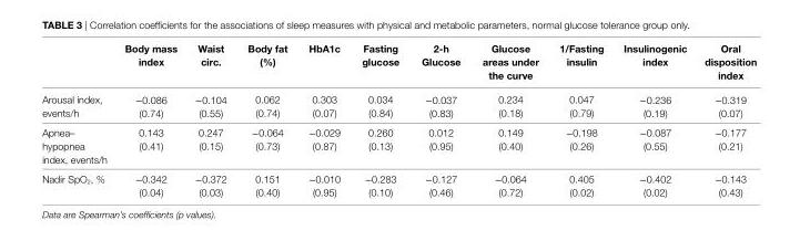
<table><thead><tr><td></td><td>Body mass index</td><td>Waist circ.</td><td>Body fat (%)</td><td>hba1c</td><td>Fasting glucose</td><td>2-h glucose</td><td>glucose areas under the curve</td><td>1/Fasting insulin</td><td>insulinogenic index</td><td>Oral disposition index</td></tr></thead><tbody><tr><td>Arousal index, events/h</td><td>−0.086 (0.74)</td><td>−0.104 (0.55)</td><td>0.062 (0.74)</td><td>0.303 (0.07)</td><td>0.034 (0.84)</td><td>−0.037 (0.83)</td><td>0.234 (0.18)</td><td>0.047 (0.79)</td><td>−0.236 (0.19)</td><td>−0.319 (0.07)</td></tr><tr><td>Apnea– hypopnea index, events/h</td><td>0.143 (0.41)</td><td>0.247 (0.15)</td><td>−0.064 (0.73)</td><td>−0.029 (0.87)</td><td>0.260 (0.13)</td><td>0.012 (0.95)</td><td>0.149 (0.40)</td><td>−0.198 (0.26)</td><td>−0.087 (0.55)</td><td>−0.177 (0.21)</td></tr><tr><td>Nadir SpO<sub>2</sub>, %</td><td>−0.342 (0.04)</td><td>−0.372 (0.03)</td><td>0.151 (0.40)</td><td>−0.010 (0.95)</td><td>−0.283 (0.10)</td><td>−0.127 (0.46)</td><td>−0.064 (0.72)</td><td>0.405 (0.02)</td><td>−0.402 (0.02)</td><td>−0.143 (0.43)</td></tr></tbody></table>